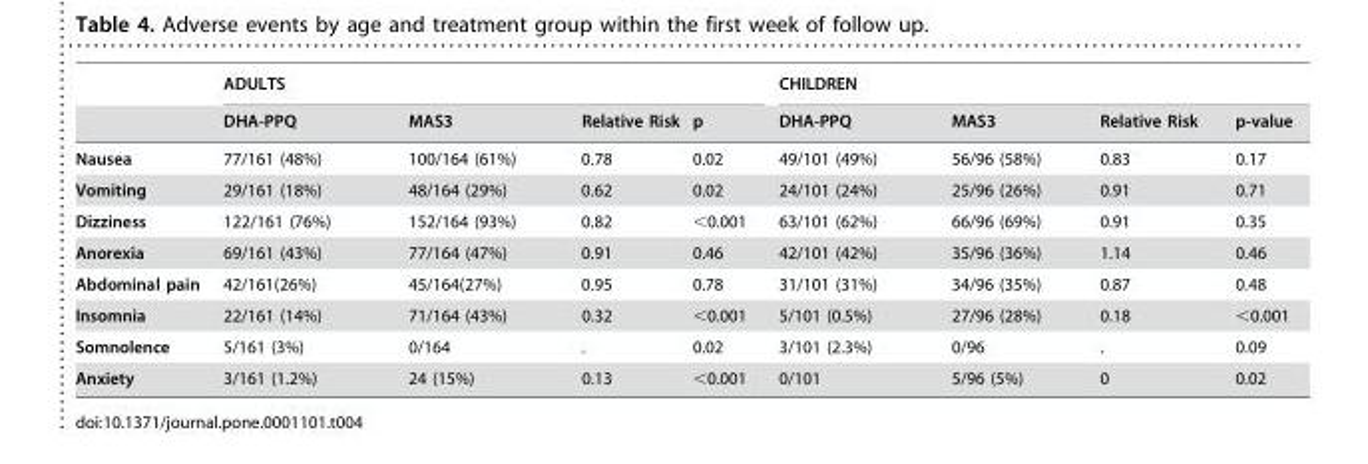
<table><thead><tr><td rowspan="2"></td><td colspan="4">ADULTS</td><td colspan="4">CHILDREN</td></tr><tr><td>DHA-PPQ</td><td>MAS3</td><td>Relative Risk</td><td>p</td><td>DHA-PPQ</td><td>MAS3</td><td>Relative Risk</td><td>p-value</td></tr></thead><tbody><tr><td>Nausea</td><td>77/161 (48%)</td><td>100/164 (61%)</td><td>0.78</td><td>0.02</td><td>49/101 (49%)</td><td>56/96 (58%)</td><td>0.83</td><td>0.17</td></tr><tr><td>Vomiting</td><td>29/161 (18%)</td><td>48/164 (29%)</td><td>0.62</td><td>0.02</td><td>24/101 (24%)</td><td>25/96 (26%)</td><td>0.91</td><td>0.71</td></tr><tr><td>Dizziness</td><td>122/161 (76%)</td><td>152/164 (93%)</td><td>0.82</td><td>&lt;0.001</td><td>63/101 (62%)</td><td>66/96 (69%)</td><td>0.91</td><td>0.35</td></tr><tr><td>Anorexia</td><td>69/161 (43%)</td><td>77/164 (47%)</td><td>0.91</td><td>0.46</td><td>42/101 (42%)</td><td>35/96 (36%)</td><td>1.14</td><td>0.46</td></tr><tr><td>Abdominal pain</td><td>42/161(26%)</td><td>45/164(27%)</td><td>0.95</td><td>0.78</td><td>31/101 (31%)</td><td>34/96 (35%)</td><td>0.87</td><td>0.48</td></tr><tr><td>Insomnia</td><td>22/161 (14%)</td><td>71/164 (43%)</td><td>0.32</td><td>&lt;0.001</td><td>5/101 (0.5%)</td><td>27/96 (28%)</td><td>0.18</td><td>&lt;0.001</td></tr><tr><td>Somnolence</td><td>5/161 (3%)</td><td>0/164</td><td>.</td><td>0.02</td><td>3/101 (2.3%)</td><td>0/96</td><td>.</td><td>0.09</td></tr><tr><td>Anxiety</td><td>3/161 (1.2%)</td><td>24 (15%)</td><td>0.13</td><td>&lt;0.001</td><td>0/101</td><td>5/96 (5%)</td><td>0</td><td>0.02</td></tr></tbody></table>